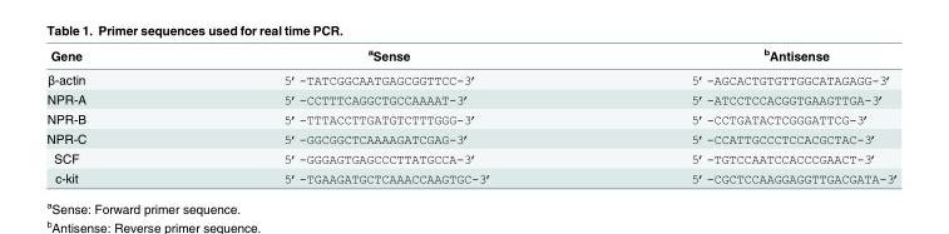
<table><thead><tr><td>Gene</td><td><sup>a</sup>Sense</td><td><sup>b</sup>Antisense</td></tr></thead><tbody><tr><td>β-actin</td><td>5’-TATCGGCAATGAGCGGTTCC-3’</td><td>5’-AGCACTGTGTTGGCATAGAGG-3’</td></tr><tr><td>NPR-A</td><td>5’-CCTTTCAGGCTGCCAAAAT-3’</td><td>5’-ATCCTCCACGGTGAAGTTGA-3’</td></tr><tr><td>NPR-B</td><td>5’-TTTACCTTGATGTCTTTGGG-3’</td><td>5’-CCTGATACTCGGGATTCG-3’</td></tr><tr><td>NPR-C</td><td>5’-GGCGGCTCAAAAGATCGAG-3’</td><td>5’-CCATTGCCCTCCACGCTAC-3’</td></tr><tr><td>SCF</td><td>5’-GGGAGTGAGCCCTTATGCCA-3’</td><td>5’-TGTCCAATCCACCCGAACT-3’</td></tr><tr><td>c-kit</td><td>5’-TGAAGATGCTCAAACCAAGTGC-3’</td><td>5’-CGCTCCAAGGAGGTTGACGATA-3’</td></tr></tbody></table>